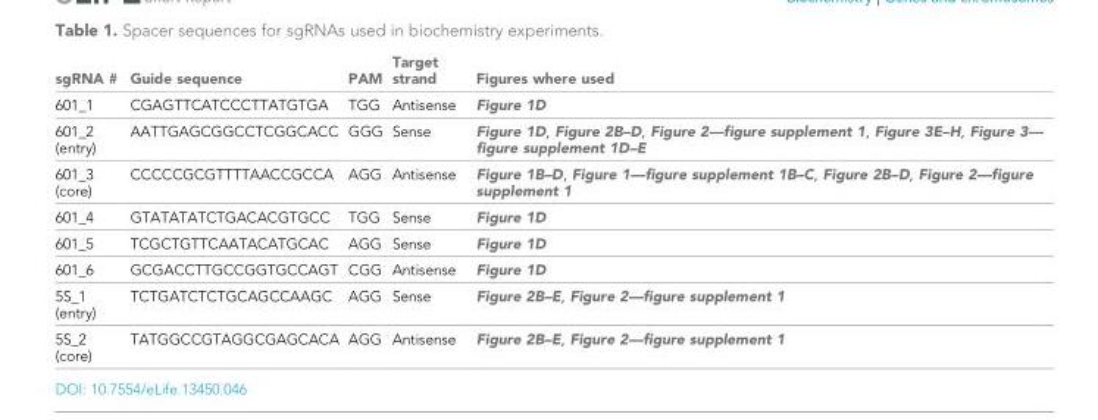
<table><thead><tr><td>sgRNA #</td><td>Guide sequence</td><td>PAM</td><td>Target strand</td><td>Figures where used</td></tr></thead><tbody><tr><td>601_1</td><td>CGAGTTCATCCCTTATGTGA</td><td>TGG</td><td>Antisense</td><td>Figure 1D</td></tr><tr><td>601_2 (entry)</td><td>AATTGAGCGGCCTCGGCACC</td><td>GGG</td><td>Sense</td><td>Figure 1D, Figure 2B–D, Figure 2—figure supplement 1, Figure 3E–H, Figure 3— figure supplement 1D–E</td></tr><tr><td>601_3 (core)</td><td>CCCCCGCGTTTTAACCGCCA</td><td>AGG</td><td>Antisense</td><td>Figure 1B–D, Figure 1—figure supplement 1B–C, Figure 2B–D, Figure 2—figure supplement 1</td></tr><tr><td>601_4</td><td>GTATATATCTGACACGTGCC</td><td>TGG</td><td>Sense</td><td>Figure 1D</td></tr><tr><td>601_5</td><td>TCGCTGTTCAATACATGCAC</td><td>AGG</td><td>Sense</td><td>Figure 1D</td></tr><tr><td>601_6</td><td>GCGACCTTGCCGGTGCCAGT</td><td>CGG</td><td>Antisense</td><td>Figure 1D</td></tr><tr><td>5S_1 (entry)</td><td>TCTGATCTCTGCAGCCAAGC</td><td>AGG</td><td>Sense</td><td>Figure 2B–E, Figure 2—figure supplement 1</td></tr><tr><td>5S_2 (core)</td><td>TATGGCCGTAGGCGAGCACA</td><td>AGG</td><td>Antisense</td><td>Figure 2B–E, Figure 2—figure supplement 1</td></tr></tbody></table>